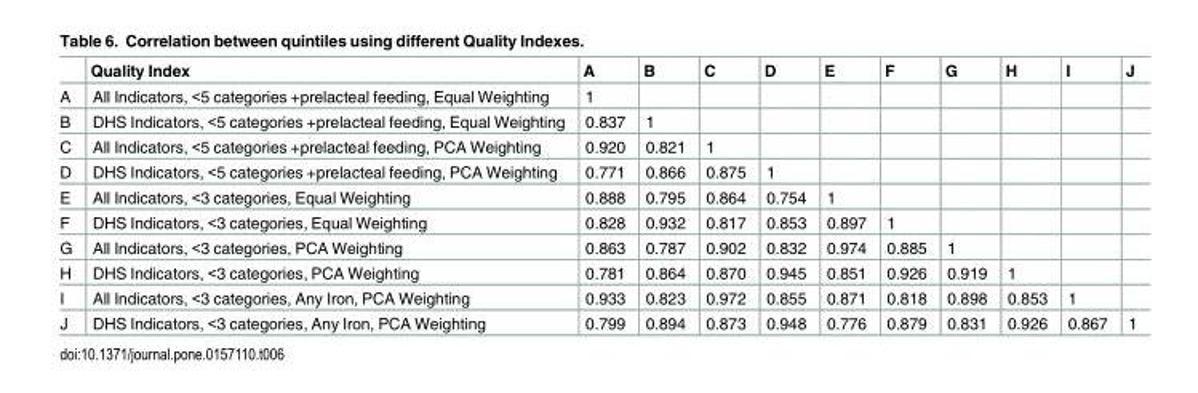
<table><thead><tr><td></td><td>Quality Index</td><td>A</td><td>B</td><td>C</td><td>D</td><td>E</td><td>F</td><td>G</td><td>H</td><td>I</td><td>J</td></tr></thead><tbody><tr><td>A</td><td>All Indicators, &lt;5 categories +prelacteal feeding, Equal Weighting</td><td>1</td><td></td><td></td><td></td><td></td><td></td><td></td><td></td><td></td><td></td></tr><tr><td>B</td><td>DHS Indicators, &lt;5 categories +prelacteal feeding, Equal Weighting</td><td>0.837</td><td>1</td><td></td><td></td><td></td><td></td><td></td><td></td><td></td><td></td></tr><tr><td>C</td><td>All Indicators, &lt;5 categories +prelacteal feeding, PCA Weighting</td><td>0.920</td><td>0.821</td><td>1</td><td></td><td></td><td></td><td></td><td></td><td></td><td></td></tr><tr><td>D</td><td>DHS Indicators, &lt;5 categories +prelacteal feeding, PCA Weighting</td><td>0.771</td><td>0.866</td><td>0.875</td><td>1</td><td></td><td></td><td></td><td></td><td></td><td></td></tr><tr><td>E</td><td>All Indicators, &lt;3 categories, Equal Weighting</td><td>0.888</td><td>0.795</td><td>0.864</td><td>0.754</td><td>1</td><td></td><td></td><td></td><td></td><td></td></tr><tr><td>F</td><td>DHS Indicators, &lt;3 categories, Equal Weighting</td><td>0.828</td><td>0.932</td><td>0.817</td><td>0.853</td><td>0.897</td><td>1</td><td></td><td></td><td></td><td></td></tr><tr><td>G</td><td>All Indicators, &lt;3 categories, PCA Weighting</td><td>0.863</td><td>0.787</td><td>0.902</td><td>0.832</td><td>0.974</td><td>0.885</td><td>1</td><td></td><td></td><td></td></tr><tr><td>H</td><td>DHS Indicators, &lt;3 categories, PCA Weighting</td><td>0.781</td><td>0.864</td><td>0.870</td><td>0.945</td><td>0.851</td><td>0.926</td><td>0.919</td><td>1</td><td></td><td></td></tr><tr><td>I</td><td>All Indicators, &lt;3 categories, Any Iron, PCA Weighting</td><td>0.933</td><td>0.823</td><td>0.972</td><td>0.855</td><td>0.871</td><td>0.818</td><td>0.898</td><td>0.853</td><td>1</td><td></td></tr><tr><td>J</td><td>DHS Indicators, &lt;3 categories, Any Iron, PCA Weighting</td><td>0.799</td><td>0.894</td><td>0.873</td><td>0.948</td><td>0.776</td><td>0.879</td><td>0.831</td><td>0.926</td><td>0.867</td><td>1</td></tr></tbody></table>